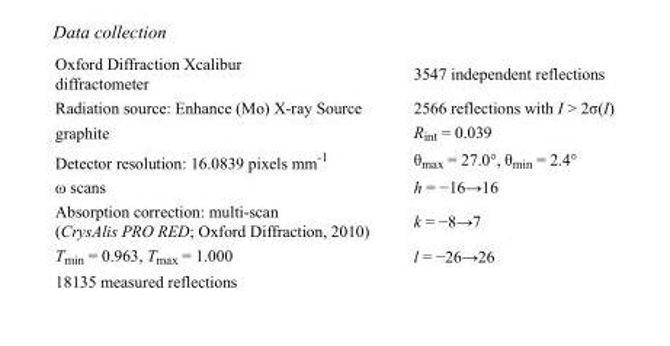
<table><tbody><tr><td>Oxford Diffraction Xcalibur diffractometer</td><td>3547 independent reflections</td></tr><tr><td>Radiation source: Enhance (Mo) X-ray Source</td><td>2566 reflections with I &gt; 2σ(I)</td></tr><tr><td>graphite</td><td>R<sub>int</sub> = 0.039</td></tr><tr><td>Detector resolution: 16.0839 pixels mm<sup>-1</sup></td><td>θ<sub>max</sub> = 27.0°, θ<sub>min</sub> = 2.4°</td></tr><tr><td>ω scans</td><td>h = −16→16</td></tr><tr><td>Absorption correction: multi-scan (CrysAlis PRO RED; Oxford Diffraction, 2010)</td><td>k = −8→7</td></tr><tr><td>T<sub>min</sub> = 0.963, T<sub>max</sub> = 1.000</td><td>l = −26→26</td></tr><tr><td>18135 measured reflections</td><td></td></tr></tbody></table>